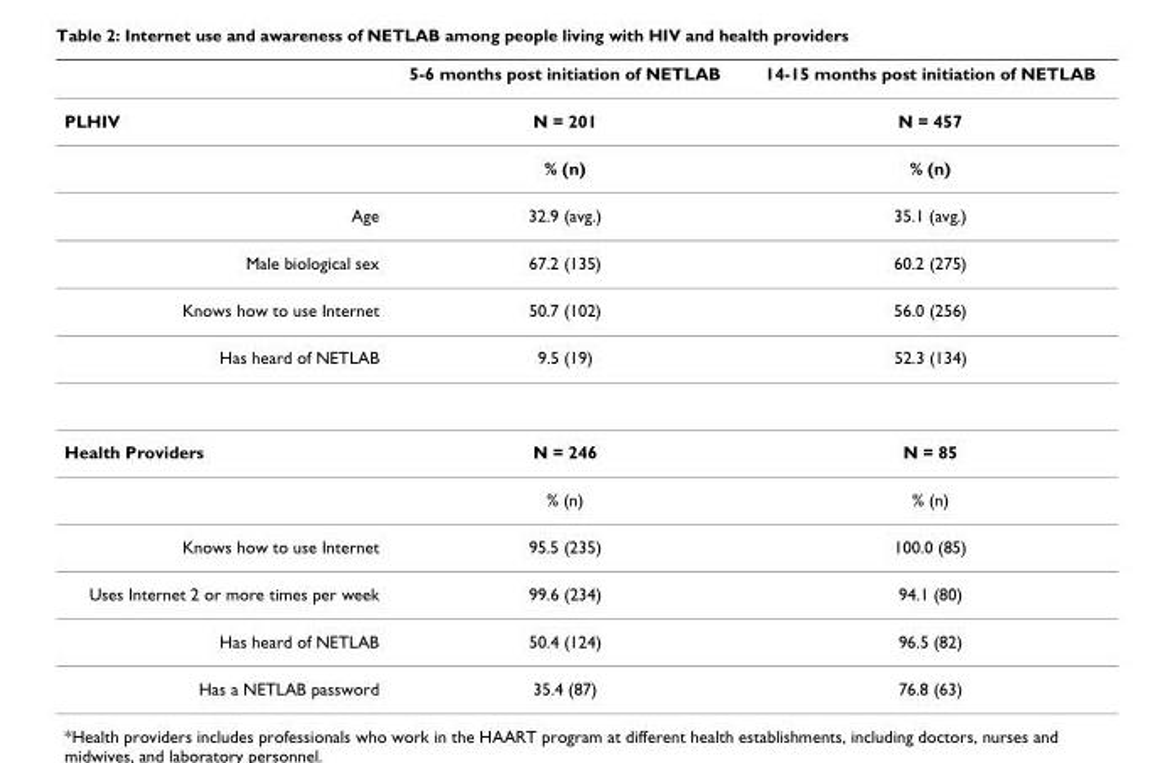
<table><thead><tr><td></td><td>5-6 months post initiation of NETLAB</td><td>14-15 months post initiation of NETLAB</td></tr></thead><tbody><tr><td rowspan="2">PLHIV</td><td>N = 201</td><td>N = 457</td></tr><tr><td>% (n)</td><td>% (n)</td></tr><tr><td>Age</td><td>32.9 (avg.)</td><td>35.1 (avg.)</td></tr><tr><td>Male biological sex</td><td>67.2 (135)</td><td>60.2 (275)</td></tr><tr><td>Knows how to use Internet</td><td>50.7 (102)</td><td>56.0 (256)</td></tr><tr><td>Has heard of NETLAB</td><td>9.5 (19)</td><td>52.3 (134)</td></tr><tr><td rowspan="2">Health Providers</td><td>N = 246</td><td>N = 85</td></tr><tr><td>% (n)</td><td>% (n)</td></tr><tr><td>Knows how to use Internet</td><td>95.5 (235)</td><td>100.0 (85)</td></tr><tr><td>Uses Internet 2 or more times per week</td><td>99.6 (234)</td><td>94.1 (80)</td></tr><tr><td>Has heard of NETLAB</td><td>50.4 (124)</td><td>96.5 (82)</td></tr><tr><td>Has a NETLAB password</td><td>35.4 (87)</td><td>76.8 (63)</td></tr></tbody></table>